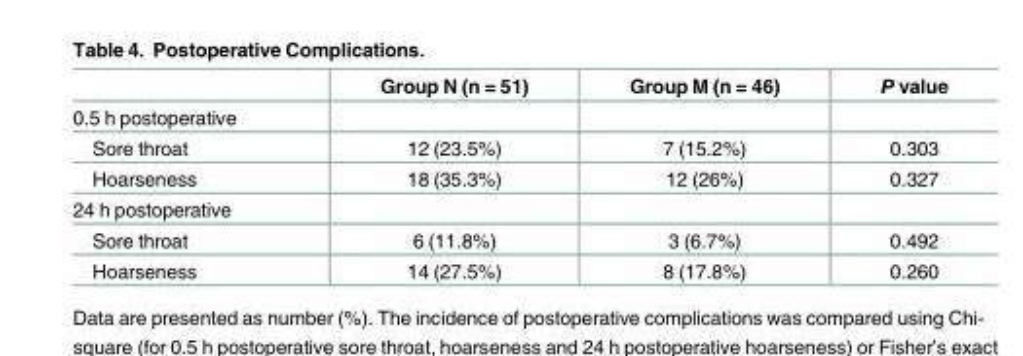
<table><thead><tr><td></td><td>Group N (n = 51)</td><td>Group M (n = 46)</td><td>P value</td></tr></thead><tbody><tr><td colspan="4">0.5 h postoperative</td></tr><tr><td>Sore throat</td><td>12 (23.5%)</td><td>7 (15.2%)</td><td>0.303</td></tr><tr><td>Hoarseness</td><td>18 (35.3%)</td><td>12 (26%)</td><td>0.327</td></tr><tr><td colspan="4">24 h postoperative</td></tr><tr><td>Sore throat</td><td>6 (11.8%)</td><td>3 (6.7%)</td><td>0.492</td></tr><tr><td>Hoarseness</td><td>14 (27.5%)</td><td>8 (17.8%)</td><td>0.260</td></tr></tbody></table>